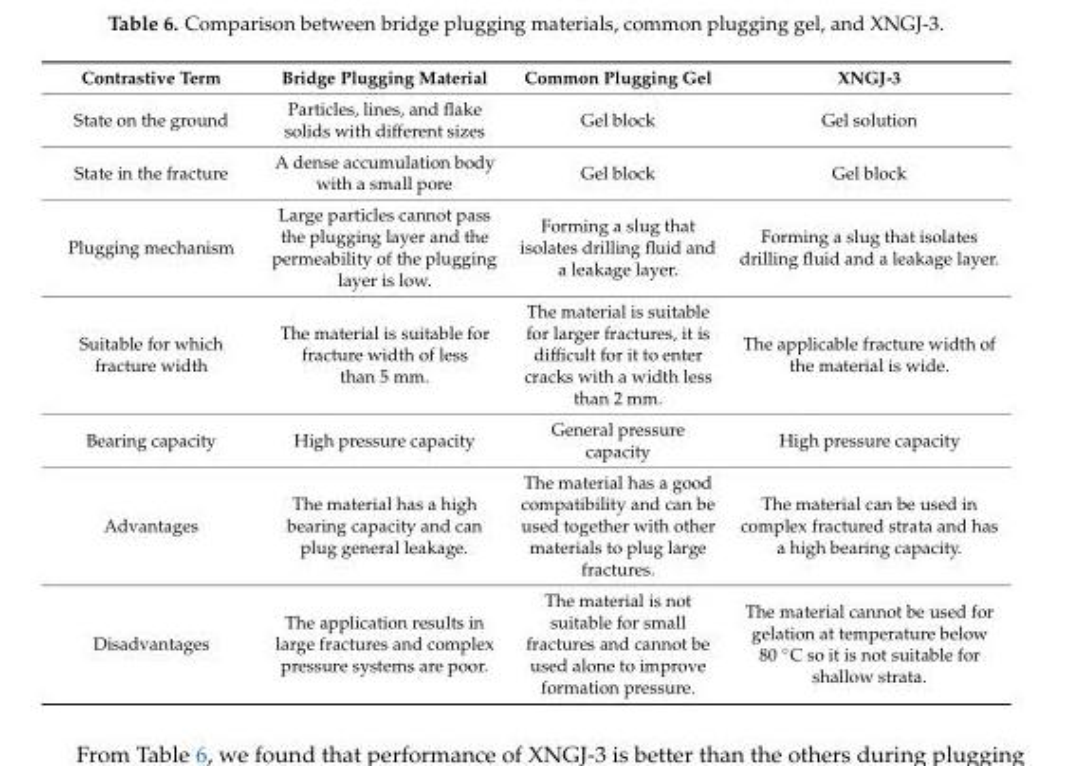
<table><thead><tr><td>Contrastive Term</td><td>Bridge Plugging Material</td><td>Common Plugging Gel</td><td>XNGJ-3</td></tr></thead><tbody><tr><td>State on the ground</td><td>Particles, lines, and flake solids with different sizes</td><td>Gel block</td><td>Gel solution</td></tr><tr><td>State in the fracture</td><td>A dense accumulation body with a small pore</td><td>Gel block</td><td>Gel block</td></tr><tr><td>Plugging mechanism</td><td>Large particles cannot pass the plugging layer and the permeability of the plugging layer is low.</td><td>Forming a slug that isolates drilling fluid and a leakage layer.</td><td>Forming a slug that isolates drilling fluid and a leakage layer.</td></tr><tr><td>Suitable for which fracture width</td><td>The material is suitable for fracture width of less than 5 mm.</td><td>The material is suitable for larger fractures, it is difficult for it to enter cracks with a width less than 2 mm.</td><td>The applicable fracture width of the material is wide.</td></tr><tr><td>Bearing capacity</td><td>High pressure capacity</td><td>General pressure capacity</td><td>High pressure capacity</td></tr><tr><td>Advantages</td><td>The material has a high bearing capacity and can plug general leakage.</td><td>The material has a good compatibility and can be used together with other materials to plug large fractures.</td><td>The material can be used in complex fractured strata and has a high bearing capacity.</td></tr><tr><td>Disadvantages</td><td>The application results in large fractures and complex pressure systems are poor.</td><td>The material is not suitable for small fractures and cannot be used alone to improve formation pressure.</td><td>The material cannot be used for gelation at temperature below 80 ◦C so it is not suitable for shallow strata.</td></tr></tbody></table>